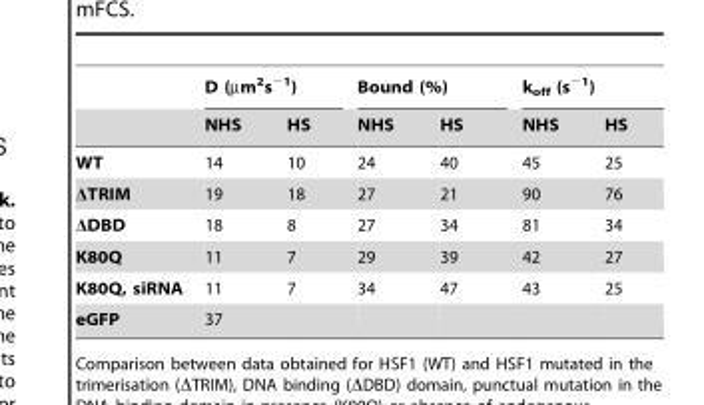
<table><thead><tr><td rowspan="2"></td><td colspan="2">D (µm<sup>2</sup>s<sup>−1</sup>)</td><td colspan="2">Bound (%)</td><td colspan="2">k<sub>off</sub> (s<sup>−1</sup>)</td></tr><tr><td>NHS</td><td>HS</td><td>NHS</td><td>HS</td><td>NHS</td><td>HS</td></tr></thead><tbody><tr><td>WT</td><td>14</td><td>10</td><td>24</td><td>40</td><td>45</td><td>25</td></tr><tr><td>ΔTRIM</td><td>19</td><td>18</td><td>27</td><td>21</td><td>90</td><td>76</td></tr><tr><td>ΔDBD</td><td>18</td><td>8</td><td>27</td><td>34</td><td>81</td><td>34</td></tr><tr><td>K80Q</td><td>11</td><td>7</td><td>29</td><td>39</td><td>42</td><td>27</td></tr><tr><td>K80Q, siRNA</td><td>11</td><td>7</td><td>34</td><td>47</td><td>43</td><td>25</td></tr><tr><td>eGFP</td><td>37</td><td></td><td></td><td></td><td></td><td></td></tr></tbody></table>